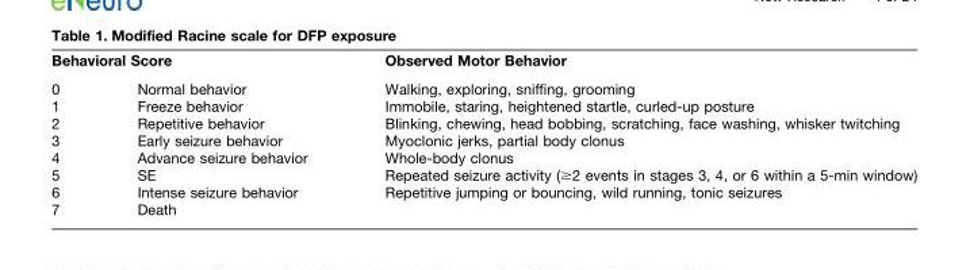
<table><tbody><tr><td colspan="2">Behavioral Score</td><td>Observed Motor Behavior</td></tr><tr><td>0</td><td>Normal behavior</td><td>Walking, exploring, sniffing, grooming</td></tr><tr><td>1</td><td>Freeze behavior</td><td>Immobile, staring, heightened startle, curled-up posture</td></tr><tr><td>2</td><td>Repetitive behavior</td><td>Blinking, chewing, head bobbing, scratching, face washing, whisker twitching</td></tr><tr><td>3</td><td>Early seizure behavior</td><td>Myoclonic jerks, partial body clonus</td></tr><tr><td>4</td><td>Advance seizure behavior</td><td>Whole-body clonus</td></tr><tr><td>5</td><td>SE</td><td>Repeated seizure activity (≥2 events in stages 3, 4, or 6 within a 5-min window)</td></tr><tr><td>6</td><td>Intense seizure behavior</td><td>Repetitive jumping or bouncing, wild running, tonic seizures</td></tr><tr><td>7</td><td>Death</td><td></td></tr></tbody></table>